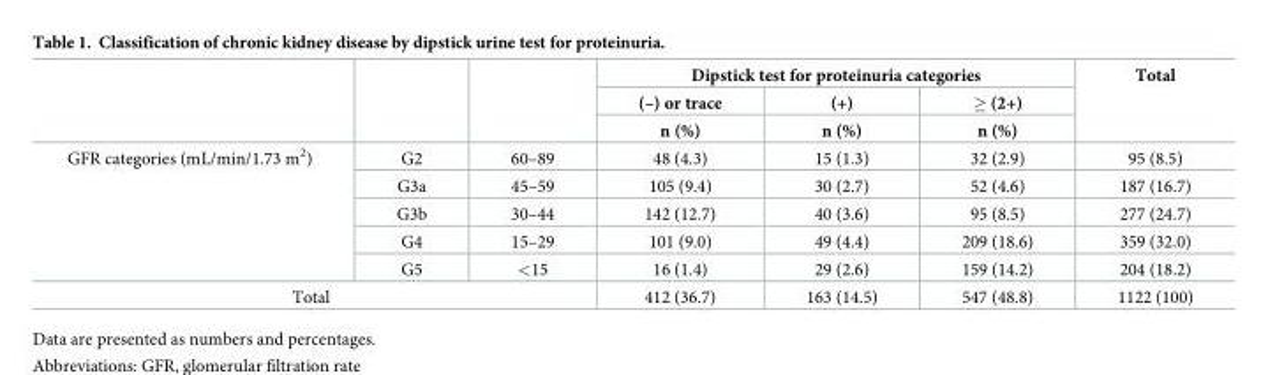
<table><thead><tr><td rowspan="3"></td><td rowspan="3"></td><td rowspan="3"></td><td colspan="3">Dipstick test for proteinuria categories</td><td rowspan="3">Total</td></tr><tr><td rowspan="2">(–) or trace n (%)</td><td rowspan="2">(+) n (%)</td><td rowspan="2">≥ (2+) n (%)</td></tr><tr></tr></thead><tbody><tr><td rowspan="5">GFR categories (mL/min/1.73 m<sup>2</sup>)</td><td>G2</td><td>60–89</td><td>48 (4.3)</td><td>15 (1.3)</td><td>32 (2.9)</td><td>95 (8.5)</td></tr><tr><td>G3a</td><td>45–59</td><td>105 (9.4)</td><td>30 (2.7)</td><td>52 (4.6)</td><td>187 (16.7)</td></tr><tr><td>G3b</td><td>30–44</td><td>142 (12.7)</td><td>40 (3.6)</td><td>95 (8.5)</td><td>277 (24.7)</td></tr><tr><td>G4</td><td>15–29</td><td>101 (9.0)</td><td>49 (4.4)</td><td>209 (18.6)</td><td>359 (32.0)</td></tr><tr><td>G5</td><td>&lt;15</td><td>16 (1.4)</td><td>29 (2.6)</td><td>159 (14.2)</td><td>204 (18.2)</td></tr><tr><td colspan="3">Total</td><td>412 (36.7)</td><td>163 (14.5)</td><td>547 (48.8)</td><td>1122 (100)</td></tr></tbody></table>